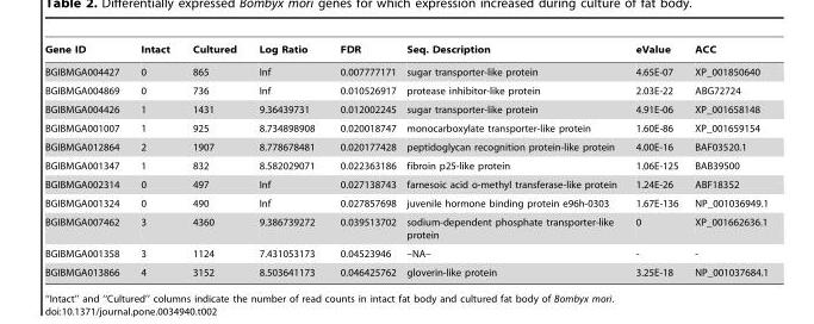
<table><thead><tr><td>Gene ID</td><td>Intact</td><td>Cultured</td><td>Log Ratio</td><td>FDR</td><td>Seq. Description</td><td>eValue</td><td>ACC</td></tr></thead><tbody><tr><td>BGIBMGA004427</td><td>0</td><td>865</td><td>Inf</td><td>0.007777171</td><td>sugar transporter-like protein</td><td>4.65E-07</td><td>XP_001850640</td></tr><tr><td>BGIBMGA004869</td><td>0</td><td>736</td><td>Inf</td><td>0.010526917</td><td>protease inhibitor-like protein</td><td>2.03E-22</td><td>ABG72724</td></tr><tr><td>BGIBMGA004426</td><td>1</td><td>1431</td><td>9.36439731</td><td>0.012002245</td><td>sugar transporter-like protein</td><td>4.91E-06</td><td>XP_001658148</td></tr><tr><td>BGIBMGA001007</td><td>1</td><td>925</td><td>8.734898908</td><td>0.020018747</td><td>monocarboxylate transporter-like protein</td><td>1.60E-86</td><td>XP_001659154</td></tr><tr><td>BGIBMGA012864</td><td>2</td><td>1907</td><td>8.778678481</td><td>0.020177428</td><td>peptidoglycan recognition protein-like protein</td><td>4.00E-16</td><td>BAF03520.1</td></tr><tr><td>BGIBMGA001347</td><td>1</td><td>832</td><td>8.582029071</td><td>0.022363186</td><td>fibroin p25-like protein</td><td>1.06E-125</td><td>BAB39500</td></tr><tr><td>BGIBMGA002314</td><td>0</td><td>497</td><td>Inf</td><td>0.027138743</td><td>farnesoic acid o-methyl transferase-like protein</td><td>1.24E-26</td><td>ABF18352</td></tr><tr><td>BGIBMGA001324</td><td>0</td><td>490</td><td>Inf</td><td>0.027857698</td><td>juvenile hormone binding protein e96h-0303</td><td>1.67E-136</td><td>NP_001036949.1</td></tr><tr><td>BGIBMGA007462</td><td>3</td><td>4360</td><td>9.386739272</td><td>0.039513702</td><td>sodium-dependent phosphate transporter-like protein</td><td>0</td><td>XP_001662636.1</td></tr><tr><td>BGIBMGA001358</td><td>3</td><td>1124</td><td>7.431053173</td><td>0.04523946</td><td>–NA–</td><td>-</td><td>-</td></tr><tr><td>BGIBMGA013866</td><td>4</td><td>3152</td><td>8.503641173</td><td>0.046425762</td><td>gloverin-like protein</td><td>3.25E-18</td><td>NP_001037684.1</td></tr></tbody></table>